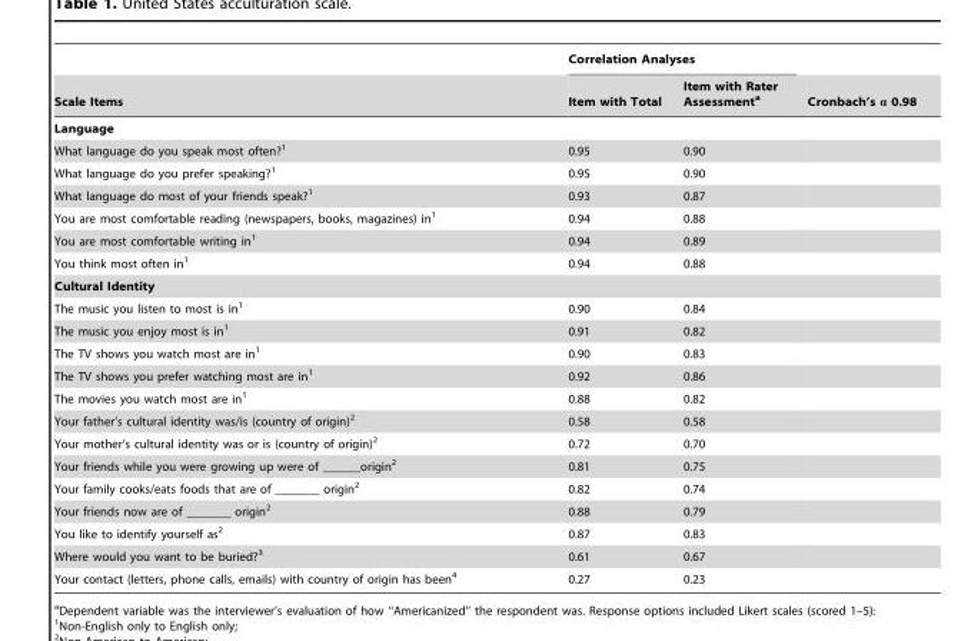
<table><thead><tr><td rowspan="2">Scale Items</td><td colspan="2">Correlation Analyses</td><td rowspan="2">Cronbach’s α 0.98</td></tr><tr><td>Item with Total</td><td>Item with Rater Assessment<sup>a</sup></td></tr></thead><tbody><tr><td colspan="4">Language</td></tr><tr><td>What language do you speak most often?<sup>1</sup></td><td>0.95</td><td>0.90</td><td></td></tr><tr><td>What language do you prefer speaking?<sup>1</sup></td><td>0.95</td><td>0.90</td><td></td></tr><tr><td>What language do most of your friends speak?<sup>1</sup></td><td>0.93</td><td>0.87</td><td></td></tr><tr><td>You are most comfortable reading (newspapers, books, magazines) in<sup>1</sup></td><td>0.94</td><td>0.88</td><td></td></tr><tr><td>You are most comfortable writing in<sup>1</sup></td><td>0.94</td><td>0.89</td><td></td></tr><tr><td>You think most often in<sup>1</sup></td><td>0.94</td><td>0.88</td><td></td></tr><tr><td colspan="4">Cultural Identity</td></tr><tr><td>The music you listen to most is in<sup>1</sup></td><td>0.90</td><td>0.84</td><td></td></tr><tr><td>The music you enjoy most is in<sup>1</sup></td><td>0.91</td><td>0.82</td><td></td></tr><tr><td>The TV shows you watch most are in<sup>1</sup></td><td>0.90</td><td>0.83</td><td></td></tr><tr><td>The TV shows you prefer watching most are in<sup>1</sup></td><td>0.92</td><td>0.86</td><td></td></tr><tr><td>The movies you watch most are in<sup>1</sup></td><td>0.88</td><td>0.82</td><td></td></tr><tr><td>Your father’s cultural identity was/is (country of origin)<sup>2</sup></td><td>0.58</td><td>0.58</td><td></td></tr><tr><td>Your mother’s cultural identity was or is (country of origin)<sup>2</sup></td><td>0.72</td><td>0.70</td><td></td></tr><tr><td>Your friends while you were growing up were of ______origin<sup>2</sup></td><td>0.81</td><td>0.75</td><td></td></tr><tr><td>Your family cooks/eats foods that are of _______ origin<sup>2</sup></td><td>0.82</td><td>0.74</td><td></td></tr><tr><td>Your friends now are of _______ origin<sup>2</sup></td><td>0.88</td><td>0.79</td><td></td></tr><tr><td>You like to identify yourself as<sup>2</sup></td><td>0.87</td><td>0.83</td><td></td></tr><tr><td>Where would you want to be buried?<sup>3</sup></td><td>0.61</td><td>0.67</td><td></td></tr><tr><td>Your contact (letters, phone calls, emails) with country of origin has been<sup>4</sup></td><td>0.27</td><td>0.23</td><td></td></tr></tbody></table>